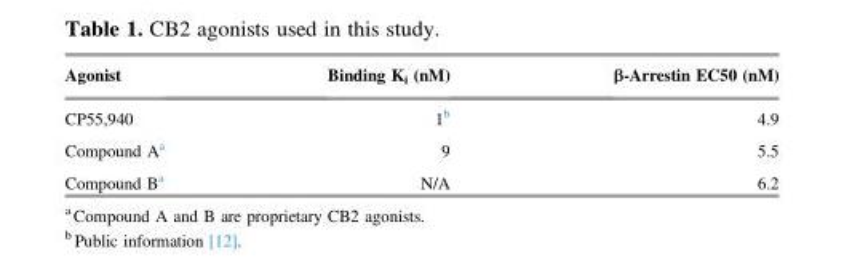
<table><thead><tr><td>Agonist</td><td>Binding K<sub>i</sub> (nM)</td><td>β-Arrestin EC50 (nM)</td></tr></thead><tbody><tr><td>CP55,940</td><td>1<sup>b</sup></td><td>4.9</td></tr><tr><td>Compound A<sup>a</sup></td><td>9</td><td>5.5</td></tr><tr><td>Compound B<sup>a</sup></td><td>N/A</td><td>6.2</td></tr></tbody></table>